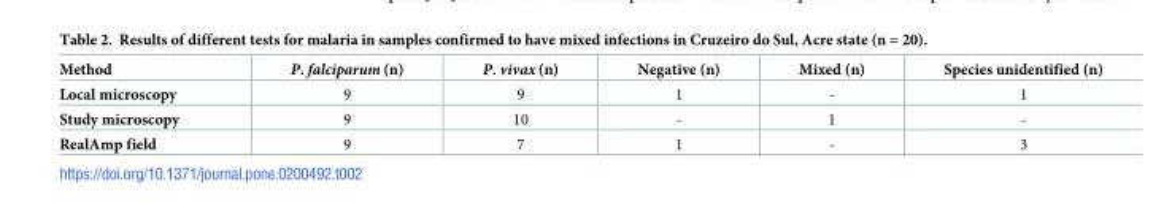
<table><thead><tr><td>Method</td><td>P. falciparum (n)</td><td>P. vivax (n)</td><td>Negative (n)</td><td>Mixed (n)</td><td>Species unidentified (n)</td></tr></thead><tbody><tr><td>Local microscopy</td><td>9</td><td>9</td><td>1</td><td>-</td><td>1</td></tr><tr><td>Study microscopy</td><td>9</td><td>10</td><td>-</td><td>1</td><td>-</td></tr><tr><td>RealAmp field</td><td>9</td><td>7</td><td>1</td><td>-</td><td>3</td></tr></tbody></table>